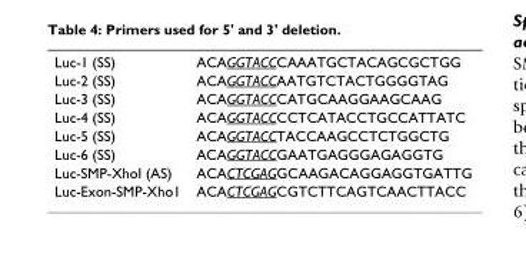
<table><tbody><tr><td>Luc-1 (SS)</td><td>ACAGGTACCCAAATGCTACAGCGCTGG</td></tr><tr><td>Luc-2 (SS)</td><td>ACAGGTACCAATGTCTACTGGGGTAG</td></tr><tr><td>Luc-3 (SS)</td><td>ACAGGTACCCATGCAAGGAAGCAAG</td></tr><tr><td>Luc-4 (SS)</td><td>ACAGGTACCCCTCATACCTGCCATTATC</td></tr><tr><td>Luc-5 (SS)</td><td>ACAGGTACCTACCAAGCCTCTGGCTG</td></tr><tr><td>Luc-6 (SS)</td><td>ACAGGTACCGAATGAGGGAGAGGTG</td></tr><tr><td>Luc-SMP-XhoI (AS)</td><td>ACACTCGAGGCAAGACAGGAGGTGATTG</td></tr><tr><td>Luc-Exon-SMP-Xho1</td><td>ACACTCGAGCGTCTTCAGTCAACTTACC</td></tr></tbody></table>